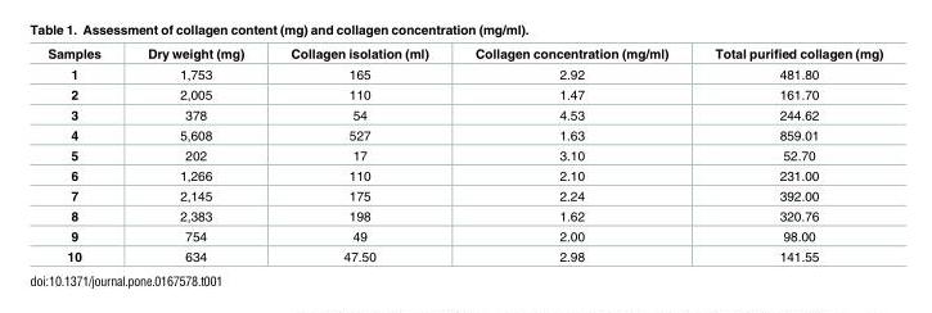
<table><thead><tr><td>Samples</td><td>Dry weight (mg)</td><td>Collagen isolation (ml)</td><td>Collagen concentration (mg/ml)</td><td>Total purified collagen (mg)</td></tr></thead><tbody><tr><td>1</td><td>1,753</td><td>165</td><td>2.92</td><td>481.80</td></tr><tr><td>2</td><td>2,005</td><td>110</td><td>1.47</td><td>161.70</td></tr><tr><td>3</td><td>378</td><td>54</td><td>4.53</td><td>244.62</td></tr><tr><td>4</td><td>5,608</td><td>527</td><td>1.63</td><td>859.01</td></tr><tr><td>5</td><td>202</td><td>17</td><td>3.10</td><td>52.70</td></tr><tr><td>6</td><td>1,266</td><td>110</td><td>2.10</td><td>231.00</td></tr><tr><td>7</td><td>2,145</td><td>175</td><td>2.24</td><td>392.00</td></tr><tr><td>8</td><td>2,383</td><td>198</td><td>1.62</td><td>320.76</td></tr><tr><td>9</td><td>754</td><td>49</td><td>2.00</td><td>98.00</td></tr><tr><td>10</td><td>634</td><td>47.50</td><td>2.98</td><td>141.55</td></tr></tbody></table>